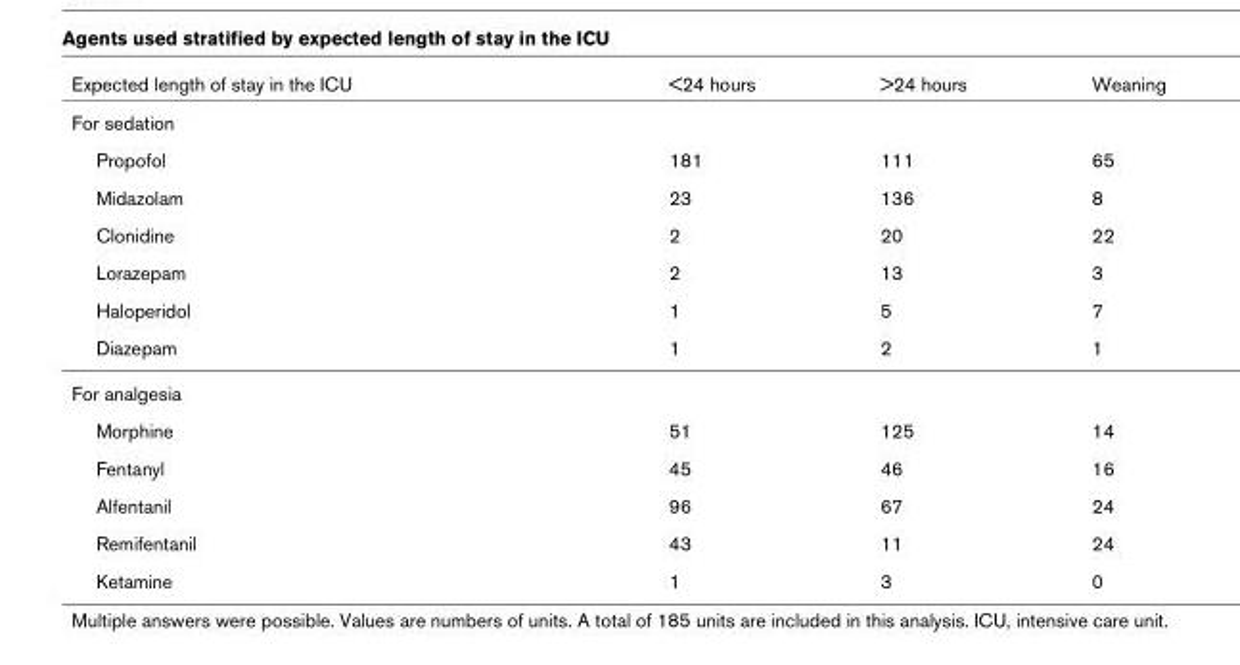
<table><thead><tr><td>Expected length of stay in the ICU</td><td>&lt;24 hours</td><td>&gt;24 hours</td><td>Weaning</td></tr></thead><tbody><tr><td colspan="4">For sedation</td></tr><tr><td>Propofol</td><td>181</td><td>111</td><td>65</td></tr><tr><td>Midazolam</td><td>23</td><td>136</td><td>8</td></tr><tr><td>Clonidine</td><td>2</td><td>20</td><td>22</td></tr><tr><td>Lorazepam</td><td>2</td><td>13</td><td>3</td></tr><tr><td>Haloperidol</td><td>1</td><td>5</td><td>7</td></tr><tr><td>Diazepam</td><td>1</td><td>2</td><td>1</td></tr><tr><td colspan="4">For analgesia</td></tr><tr><td>Morphine</td><td>51</td><td>125</td><td>14</td></tr><tr><td>Fentanyl</td><td>45</td><td>46</td><td>16</td></tr><tr><td>Alfentanil</td><td>96</td><td>67</td><td>24</td></tr><tr><td>Remifentanil</td><td>43</td><td>11</td><td>24</td></tr><tr><td>Ketamine</td><td>1</td><td>3</td><td>0</td></tr></tbody></table>